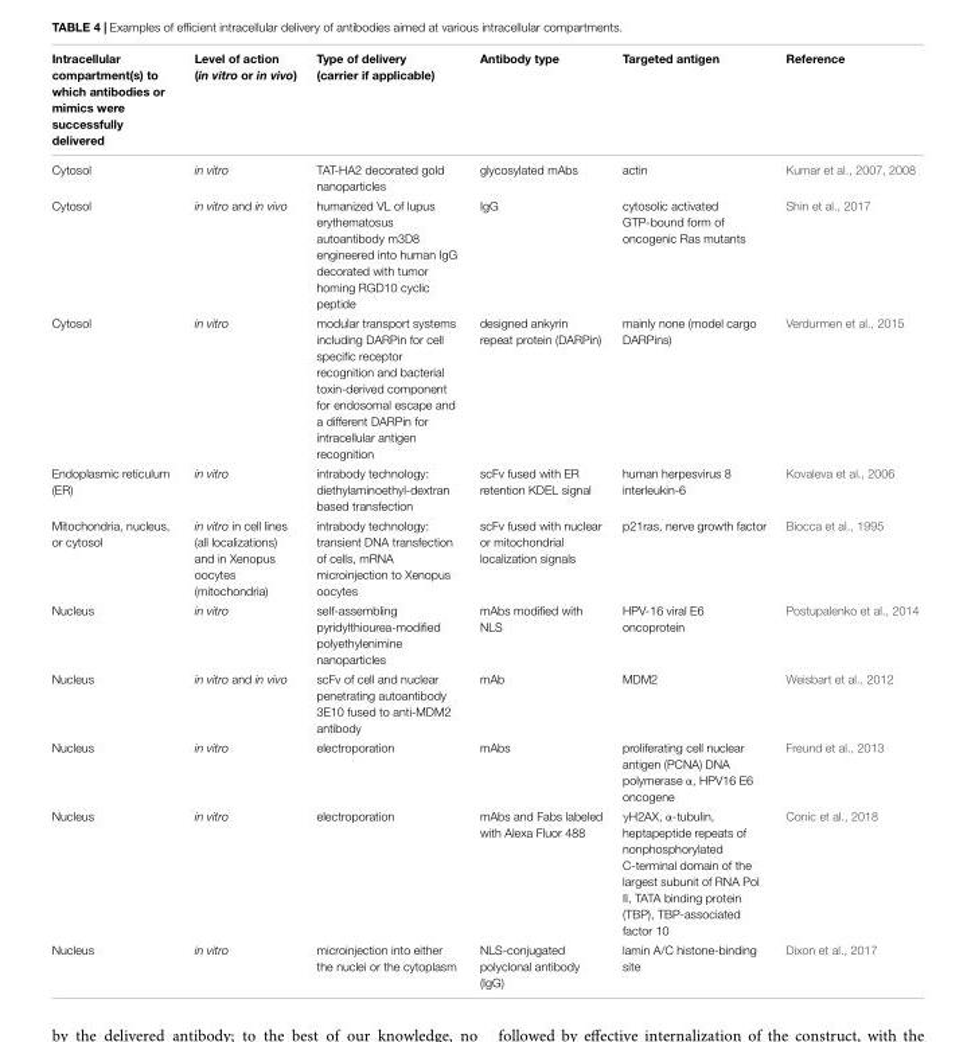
<table><thead><tr><td>Intracellular compartment(s) to which antibodies or mimics were successfully delivered</td><td>Level of action (in vitro or in vivo)</td><td>Type of delivery (carrier if applicable)</td><td>Antibody type</td><td>Targeted antigen</td><td>Reference</td></tr></thead><tbody><tr><td>Cytosol</td><td>in vitro</td><td>TAT-HA2 decorated gold nanoparticles</td><td>glycosylated mAbs</td><td>actin</td><td>Kumar et al., 2007, 2008</td></tr><tr><td>Cytosol</td><td>in vitro and in vivo</td><td>humanized VL of lupus erythematosus autoantibody m3D8 engineered into human IgG decorated with tumor homing RGD10 cyclic peptide</td><td>IgG</td><td>cytosolic activated GTP-bound form of oncogenic Ras mutants</td><td>Shin et al., 2017</td></tr><tr><td>Cytosol</td><td>in vitro</td><td>modular transport systems including DARPin for cell specific receptor recognition and bacterial toxin-derived component for endosomal escape and a different DARPin for intracellular antigen recognition</td><td>designed ankyrin repeat protein (DARPin)</td><td>mainly none (model cargo DARPins)</td><td>Verdurmen et al., 2015</td></tr><tr><td>Endoplasmic reticulum (ER)</td><td>in vitro</td><td>intrabody technology: diethylaminoethyl-dextran based transfection</td><td>scFv fused with ER retention KDEL signal</td><td>human herpesvirus 8 interleukin-6</td><td>Kovaleva et al., 2006</td></tr><tr><td>Mitochondria, nucleus, or cytosol</td><td>in vitro in cell lines (all localizations) and in Xenopus oocytes (mitochondria)</td><td>intrabody technology: transient DNA transfection of cells, mRNA microinjection to Xenopus oocytes</td><td>scFv fused with nuclear or mitochondrial localization signals</td><td>p21ras, nerve growth factor</td><td>Biocca et al., 1995</td></tr><tr><td>Nucleus</td><td>in vitro</td><td>self-assembling pyridylthiourea-modified polyethylenimine nanoparticles</td><td>mAbs modified with NLS</td><td>HPV-16 viral E6 oncoprotein</td><td>Postupalenko et al., 2014</td></tr><tr><td>Nucleus</td><td>in vitro and in vivo</td><td>scFv of cell and nuclear penetrating autoantibody 3E10 fused to anti-MDM2 antibody</td><td>mAb</td><td>MDM2</td><td>Weisbart et al., 2012</td></tr><tr><td>Nucleus</td><td>in vitro</td><td>electroporation</td><td>mAbs</td><td>proliferating cell nuclear antigen (PCNA) DNA polymerase α, HPV16 E6 oncogene</td><td>Freund et al., 2013</td></tr><tr><td>Nucleus</td><td>in vitro</td><td>electroporation</td><td>mAbs and Fabs labeled with Alexa Fluor 488</td><td>γH2AX, α-tubulin, heptapeptide repeats of nonphosphorylated C-terminal domain of the largest subunit of RNA Pol II, TATA binding protein (TBP), TBP-associated factor 10</td><td>Conic et al., 2018</td></tr><tr><td>Nucleus</td><td>in vitro</td><td>microinjection into either the nuclei or the cytoplasm</td><td>NLS-conjugated polyclonal antibody (IgG)</td><td>lamin A/C histone-binding site</td><td>Dixon et al., 2017</td></tr></tbody></table>